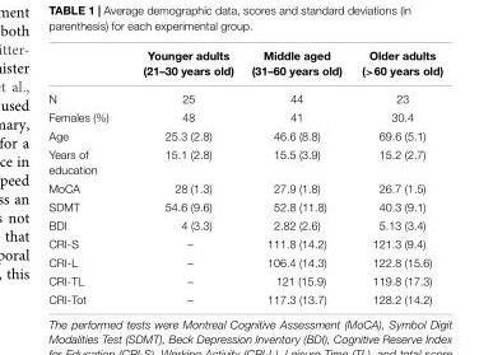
<table><thead><tr><td></td><td>Younger adults (21–30 years old)</td><td>Middle aged (31–60 years old)</td><td>Older adults (&gt;60 years old)</td></tr></thead><tbody><tr><td>N</td><td>25</td><td>44</td><td>23</td></tr><tr><td>Females (%)</td><td>48</td><td>41</td><td>30.4</td></tr><tr><td>Age</td><td>25.3 (2.8)</td><td>46.6 (8.8)</td><td>69.6 (5.1)</td></tr><tr><td>Years of education</td><td>15.1 (2.8)</td><td>15.5 (3.9)</td><td>15.2 (2.7)</td></tr><tr><td>MoCA</td><td>28 (1.3)</td><td>27.9 (1.8)</td><td>26.7 (1.5)</td></tr><tr><td>SDMT</td><td>54.6 (9.6)</td><td>52.8 (11.8)</td><td>40.3 (9.1)</td></tr><tr><td>BDI</td><td>4 (3.3)</td><td>2.82 (2.6)</td><td>5.13 (3.4)</td></tr><tr><td>CRI-S</td><td>–</td><td>111.8 (14.2)</td><td>121.3 (9.4)</td></tr><tr><td>CRI-L</td><td>–</td><td>106.4 (14.3)</td><td>122.8 (15.6)</td></tr><tr><td>CRI-TL</td><td>–</td><td>121 (15.9)</td><td>119.8 (17.3)</td></tr><tr><td>CRI-Tot</td><td>–</td><td>117.3 (13.7)</td><td>128.2 (14.2)</td></tr></tbody></table>